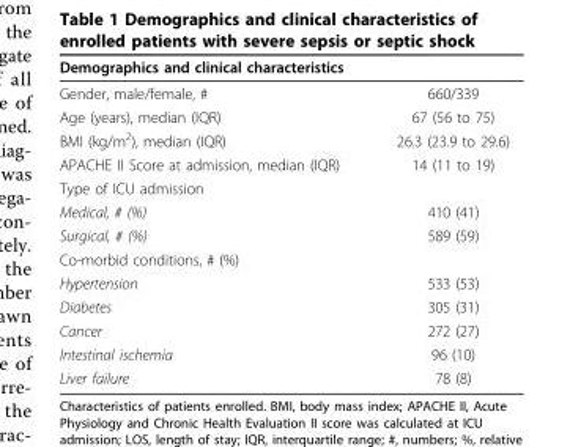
<table><thead><tr><td>Demographics and clinical characteristics</td><td></td></tr></thead><tbody><tr><td>Gender, male/female, #</td><td>660/339</td></tr><tr><td>Age (years), median (IQR)</td><td>67 (56 to 75)</td></tr><tr><td>BMI (kg/m<sup>2</sup>), median (IQR)</td><td>26.3 (23.9 to 29.6)</td></tr><tr><td>APACHE II Score at admission, median (IQR)</td><td>14 (11 to 19)</td></tr><tr><td colspan="2">Type of ICU admission</td></tr><tr><td>Medical, # (%)</td><td>410 (41)</td></tr><tr><td>Surgical, # (%)</td><td>589 (59)</td></tr><tr><td colspan="2">Co-morbid conditions, # (%)</td></tr><tr><td>Hypertension</td><td>533 (53)</td></tr><tr><td>Diabetes</td><td>305 (31)</td></tr><tr><td>Cancer</td><td>272 (27)</td></tr><tr><td>Intestinal ischemia</td><td>96 (10)</td></tr><tr><td>Liver failure</td><td>78 (8)</td></tr></tbody></table>